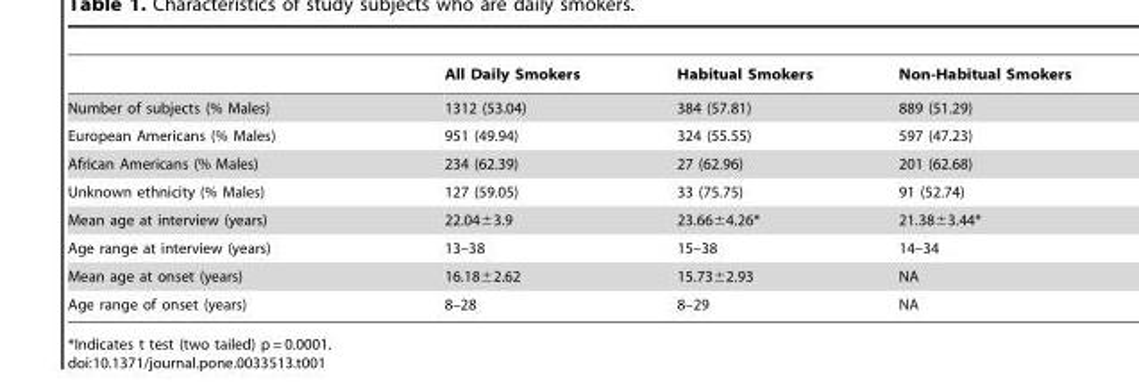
<table><thead><tr><td></td><td>All Daily Smokers</td><td>Habitual Smokers</td><td>Non-Habitual Smokers</td></tr></thead><tbody><tr><td>Number of subjects (% Males)</td><td>1312 (53.04)</td><td>384 (57.81)</td><td>889 (51.29)</td></tr><tr><td>European Americans (% Males)</td><td>951 (49.94)</td><td>324 (55.55)</td><td>597 (47.23)</td></tr><tr><td>African Americans (% Males)</td><td>234 (62.39)</td><td>27 (62.96)</td><td>201 (62.68)</td></tr><tr><td>Unknown ethnicity (% Males)</td><td>127 (59.05)</td><td>33 (75.75)</td><td>91 (52.74)</td></tr><tr><td>Mean age at interview (years)</td><td>22.04±3.9</td><td>23.66±4.26*</td><td>21.38±3.44*</td></tr><tr><td>Age range at interview (years)</td><td>13–38</td><td>15–38</td><td>14–34</td></tr><tr><td>Mean age at onset (years)</td><td>16.18±2.62</td><td>15.73±2.93</td><td>NA</td></tr><tr><td>Age range of onset (years)</td><td>8–28</td><td>8–29</td><td>NA</td></tr></tbody></table>